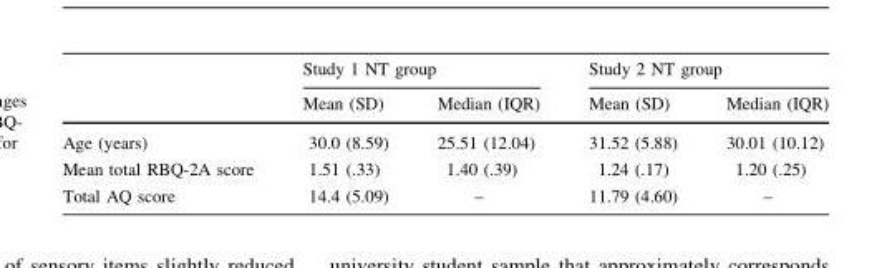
<table><thead><tr><td rowspan="2"></td><td colspan="2">Study 1 NT group</td><td colspan="2">Study 2 NT group</td></tr><tr><td>Mean (SD)</td><td>Median (IQR)</td><td>Mean (SD)</td><td>Median (IQR)</td></tr></thead><tbody><tr><td>Age (years)</td><td>30.0 (8.59)</td><td>25.51 (12.04)</td><td>31.52 (5.88)</td><td>30.01 (10.12)</td></tr><tr><td>Mean total RBQ-2A score</td><td>1.51 (.33)</td><td>1.40 (.39)</td><td>1.24 (.17)</td><td>1.20 (.25)</td></tr><tr><td>Total AQ score</td><td>14.4 (5.09)</td><td>–</td><td>11.79 (4.60)</td><td>–</td></tr></tbody></table>